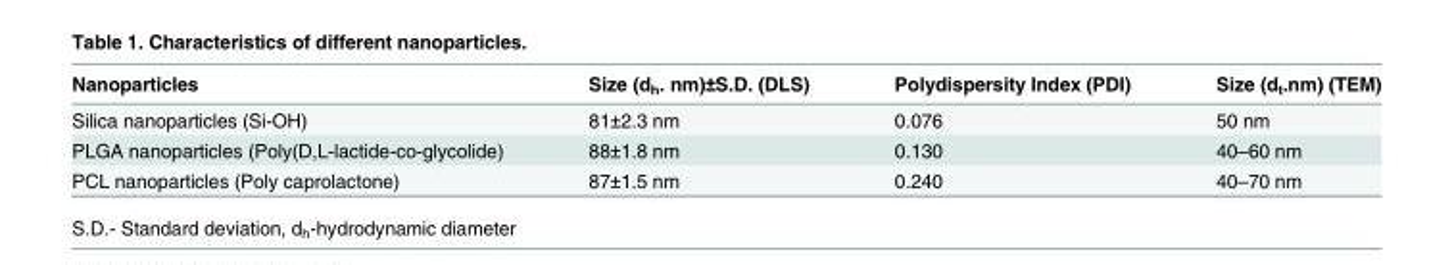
<table><thead><tr><td>Nanoparticles</td><td>Size (d<sub>h</sub>. nm)±S.D. (DLS)</td><td>Polydispersity Index (PDI)</td><td>Size (d<sub>t</sub>.nm) (TEM)</td></tr></thead><tbody><tr><td>Silica nanoparticles (Si-OH)</td><td>81±2.3 nm</td><td>0.076</td><td>50 nm</td></tr><tr><td>PLGA nanoparticles (Poly(D,L-lactide-co-glycolide)</td><td>88±1.8 nm</td><td>0.130</td><td>40–60 nm</td></tr><tr><td>PCL nanoparticles (Poly caprolactone)</td><td>87±1.5 nm</td><td>0.240</td><td>40–70 nm</td></tr></tbody></table>